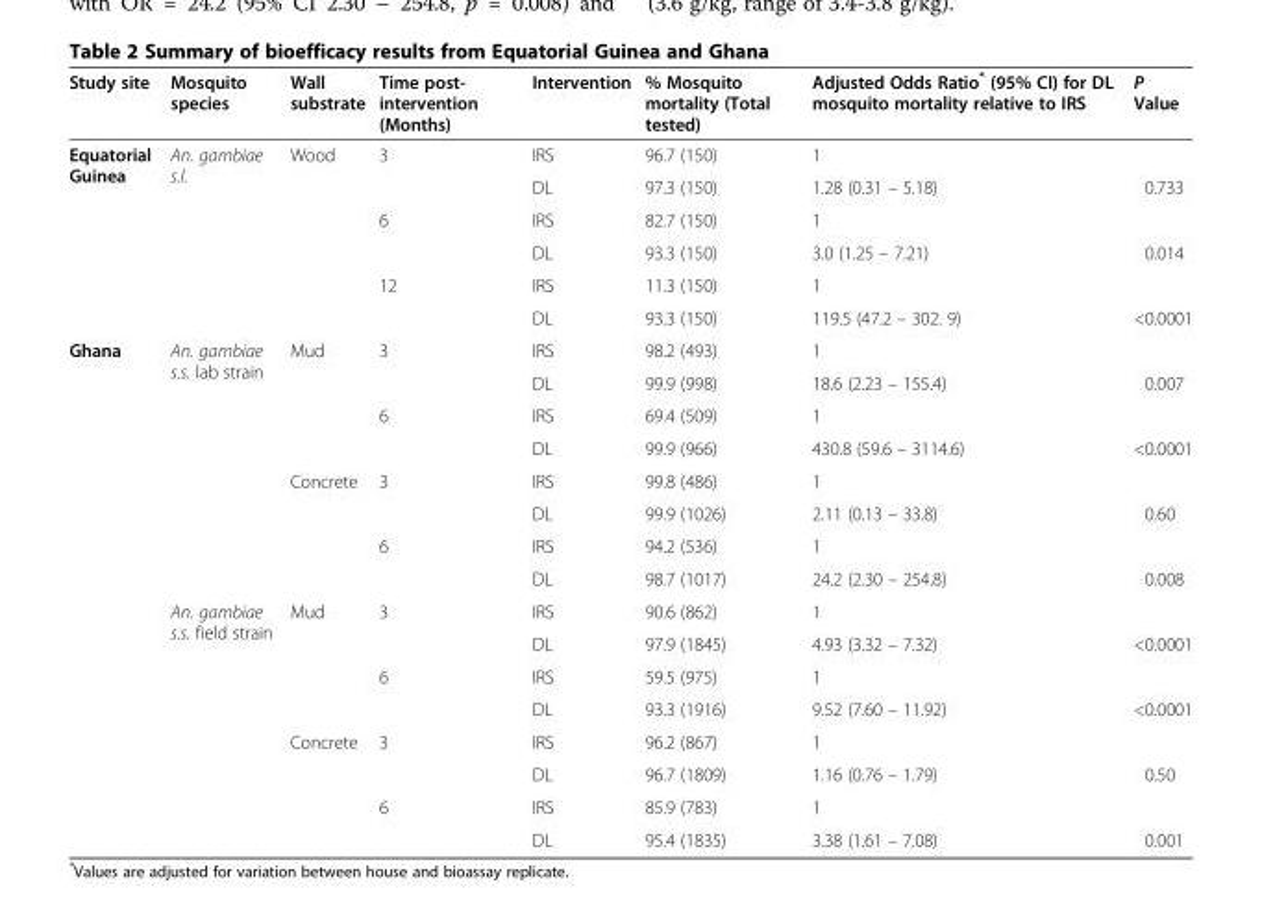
<table><thead><tr><td>Study site</td><td>Mosquito species</td><td>Wall substrate</td><td>Time post- intervention (Months)</td><td>Intervention</td><td>% Mosquito mortality (Total tested)</td><td>Adjusted Odds Ratio* (95% CI) for DL mosquito mortality relative to IRS</td><td>P Value</td></tr></thead><tbody><tr><td rowspan="6">Equatorial Guinea</td><td rowspan="6">An. gambiae s.l.</td><td rowspan="6">Wood</td><td rowspan="2">3</td><td>IRS</td><td>96.7 (150)</td><td>1</td><td></td></tr><tr><td>DL</td><td>97.3 (150)</td><td>1.28 (0.31 – 5.18)</td><td>0.733</td></tr><tr><td rowspan="2">6</td><td>IRS</td><td>82.7 (150)</td><td>1</td><td></td></tr><tr><td>DL</td><td>93.3 (150)</td><td>3.0 (1.25 – 7.21)</td><td>0.014</td></tr><tr><td rowspan="2">12</td><td>IRS</td><td>11.3 (150)</td><td>1</td><td></td></tr><tr><td>DL</td><td>93.3 (150)</td><td>119.5 (47.2 – 302. 9)</td><td>&lt;0.0001</td></tr><tr><td rowspan="16">Ghana</td><td rowspan="8">An. gambiae s.s. lab strain</td><td rowspan="4">Mud</td><td rowspan="2">3</td><td>IRS</td><td>98.2 (493)</td><td>1</td><td></td></tr><tr><td>DL</td><td>99.9 (998)</td><td>18.6 (2.23 – 155.4)</td><td>0.007</td></tr><tr><td rowspan="2">6</td><td>IRS</td><td>69.4 (509)</td><td>1</td><td></td></tr><tr><td>DL</td><td>99.9 (966)</td><td>430.8 (59.6 – 3114.6)</td><td>&lt;0.0001</td></tr><tr><td rowspan="4">Concrete</td><td rowspan="2">3</td><td>IRS</td><td>99.8 (486)</td><td>1</td><td></td></tr><tr><td>DL</td><td>99.9 (1026)</td><td>2.11 (0.13 – 33.8)</td><td>0.60</td></tr><tr><td rowspan="2">6</td><td>IRS</td><td>94.2 (536)</td><td>1</td><td></td></tr><tr><td>DL</td><td>98.7 (1017)</td><td>24.2 (2.30 – 254.8)</td><td>0.008</td></tr><tr><td rowspan="7">An. gambiae s.s. field strain</td><td rowspan="4">Mud</td><td rowspan="2">3</td><td>IRS</td><td>90.6 (862)</td><td>1</td><td></td></tr><tr><td>DL</td><td>97.9 (1845)</td><td>4.93 (3.32 – 7.32)</td><td>&lt;0.0001</td></tr><tr><td rowspan="2">6</td><td>IRS</td><td>59.5 (975)</td><td>1</td><td></td></tr><tr><td>DL</td><td>93.3 (1916)</td><td>9.52 (7.60 – 11.92)</td><td>&lt;0.0001</td></tr><tr><td rowspan="3">Concrete</td><td rowspan="2">3</td><td>IRS</td><td>96.2 (867)</td><td>1</td><td></td></tr><tr><td>DL</td><td>96.7 (1809)</td><td>1.16 (0.76 – 1.79)</td><td>0.50</td></tr><tr><td>6</td><td>IRS</td><td>85.9 (783)</td><td>1</td><td></td></tr><tr><td></td><td></td><td></td><td>DL</td><td>95.4 (1835)</td><td>3.38 (1.61 – 7.08)</td><td>0.001</td></tr></tbody></table>